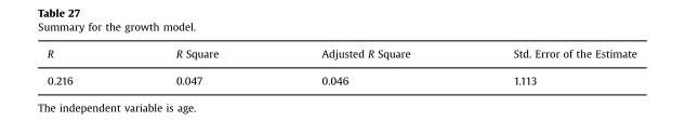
<table><thead><tr><td>R</td><td>R Square</td><td>Adjusted R Square</td><td>Std. Error of the Estimate</td></tr></thead><tbody><tr><td>0.216</td><td>0.047</td><td>0.046</td><td>1.113</td></tr></tbody></table>